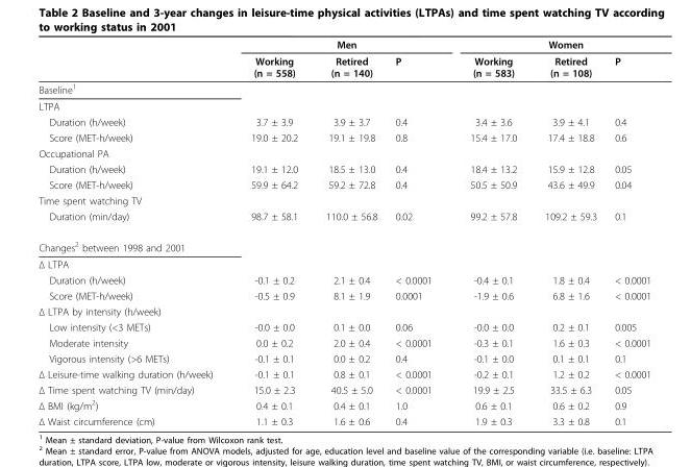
<table><thead><tr><td rowspan="2"></td><td colspan="3">Men</td><td colspan="3">Women</td></tr><tr><td>Working (n = 558)</td><td>Retired (n = 140)</td><td>P</td><td>Working (n = 583)</td><td>Retired (n = 108)</td><td>P</td></tr></thead><tbody><tr><td colspan="7">Baseline<sup>1</sup></td></tr><tr><td colspan="7">LTPA</td></tr><tr><td>Duration (h/week)</td><td>3.7 ± 3.9</td><td>3.9 ± 3.7</td><td>0.4</td><td>3.4 ± 3.6</td><td>3.9 ± 4.1</td><td>0.4</td></tr><tr><td>Score (MET-h/week)</td><td>19.0 ± 20.2</td><td>19.1 ± 19.8</td><td>0.8</td><td>15.4 ± 17.0</td><td>17.4 ± 18.8</td><td>0.6</td></tr><tr><td colspan="7">Occupational PA</td></tr><tr><td>Duration (h/week)</td><td>19.1 ± 12.0</td><td>18.5 ± 13.0</td><td>0.4</td><td>18.4 ± 13.2</td><td>15.9 ± 12.8</td><td>0.05</td></tr><tr><td>Score (MET-h/week)</td><td>59.9 ± 64.2</td><td>59.2 ± 72.8</td><td>0.4</td><td>50.5 ± 50.9</td><td>43.6 ± 49.9</td><td>0.04</td></tr><tr><td colspan="7">Time spent watching TV</td></tr><tr><td>Duration (min/day)</td><td>98.7 ± 58.1</td><td>110.0 ± 56.8</td><td>0.02</td><td>99.2 ± 57.8</td><td>109.2 ± 59.3</td><td>0.1</td></tr><tr><td colspan="7">Changes<sup>2</sup> between 1998 and 2001</td></tr><tr><td colspan="7">Δ LTPA</td></tr><tr><td>Duration (h/week)</td><td>-0.1 ± 0.2</td><td>2.1 ± 0.4</td><td>&lt; 0.0001</td><td>-0.4 ± 0.1</td><td>1.8 ± 0.4</td><td>&lt; 0.0001</td></tr><tr><td>Score (MET-h/week)</td><td>-0.5 ± 0.9</td><td>8.1 ± 1.9</td><td>0.0001</td><td>-1.9 ± 0.6</td><td>6.8 ± 1.6</td><td>&lt; 0.0001</td></tr><tr><td colspan="7">Δ LTPA by intensity (h/week)</td></tr><tr><td>Low intensity (&lt;3 METs)</td><td>-0.0 ± 0.0</td><td>0.1 ± 0.0</td><td>0.06</td><td>-0.0 ± 0.0</td><td>0.2 ± 0.1</td><td>0.005</td></tr><tr><td>Moderate intensity</td><td>0.0 ± 0.2</td><td>2.0 ± 0.4</td><td>&lt; 0.0001</td><td>-0.3 ± 0.1</td><td>1.6 ± 0.3</td><td>&lt; 0.0001</td></tr><tr><td>Vigorous intensity (&gt;6 METs)</td><td>-0.1 ± 0.1</td><td>0.0 ± 0.2</td><td>0.4</td><td>-0.1 ± 0.0</td><td>0.1 ± 0.1</td><td>0.1</td></tr><tr><td>Δ Leisure-time walking duration (h/week)</td><td>-0.1 ± 0.1</td><td>0.8 ± 0.1</td><td>&lt; 0.0001</td><td>-0.2 ± 0.1</td><td>1.2 ± 0.2</td><td>&lt; 0.0001</td></tr><tr><td>Δ Time spent watching TV (min/day)</td><td>15.0 ± 2.3</td><td>40.5 ± 5.0</td><td>&lt; 0.0001</td><td>19.9 ± 2.5</td><td>33.5 ± 6.3</td><td>0.05</td></tr><tr><td>Δ BMI (kg/m<sup>2</sup>)</td><td>0.4 ± 0.1</td><td>0.4 ± 0.1</td><td>1.0</td><td>0.6 ± 0.1</td><td>0.6 ± 0.2</td><td>0.9</td></tr><tr><td>Δ Waist circumference (cm)</td><td>1.1 ± 0.3</td><td>1.6 ± 0.6</td><td>0.4</td><td>1.9 ± 0.3</td><td>3.3 ± 0.8</td><td>0.1</td></tr></tbody></table>